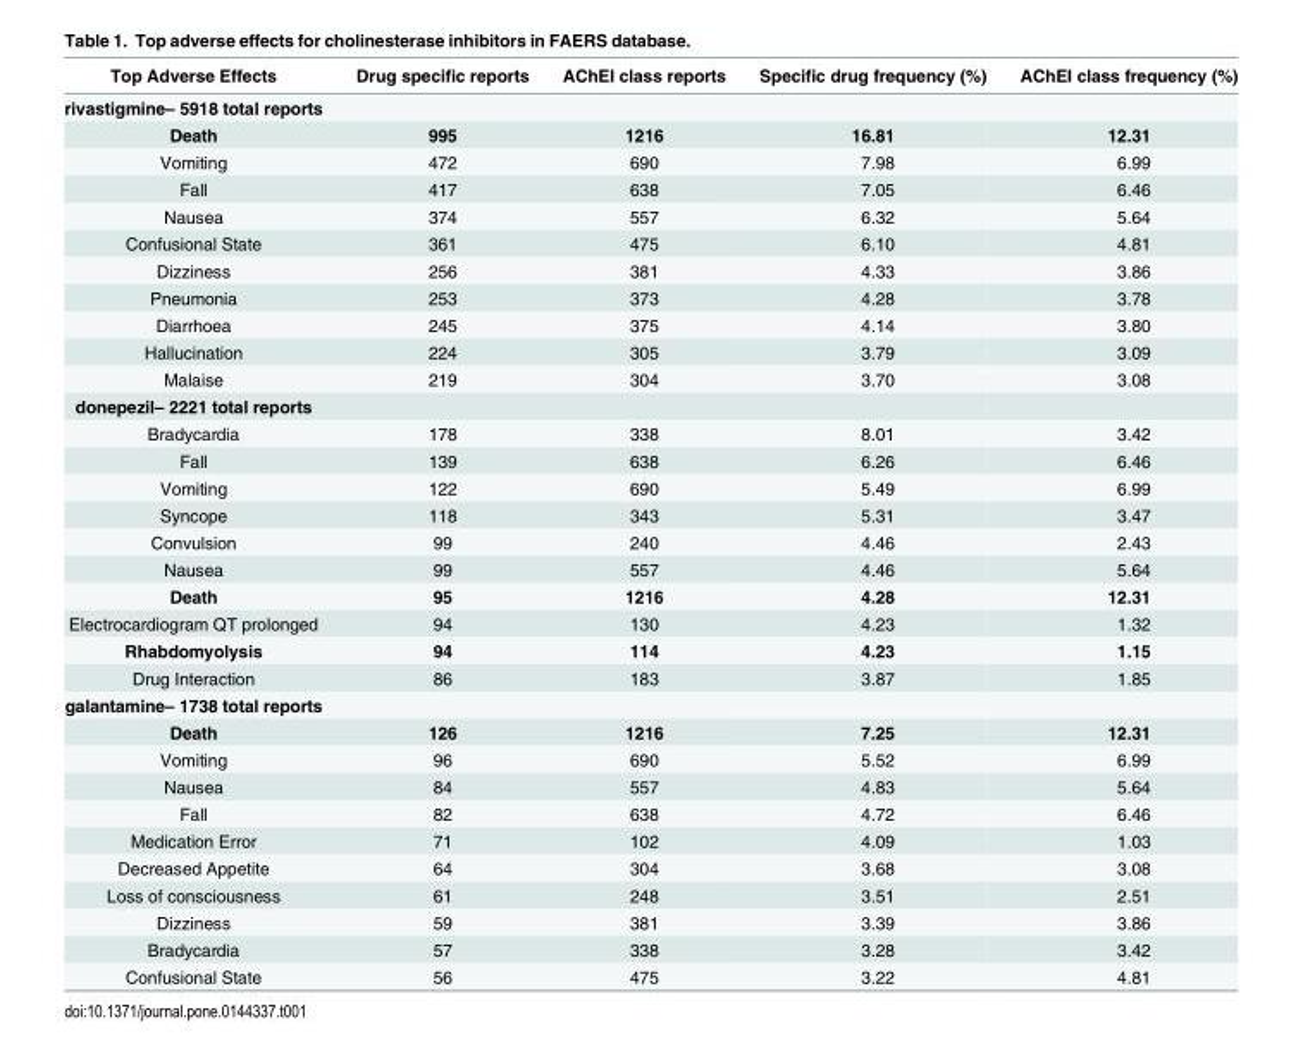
<table><thead><tr><td>Top Adverse Effects</td><td>Drug specific reports</td><td>AChEI class reports</td><td>Specific drug frequency (%)</td><td>AChEI class frequency (%)</td></tr></thead><tbody><tr><td colspan="5">rivastigmine– 5918 total reports</td></tr><tr><td>Death</td><td>995</td><td>1216</td><td>16.81</td><td>12.31</td></tr><tr><td>Vomiting</td><td>472</td><td>690</td><td>7.98</td><td>6.99</td></tr><tr><td>Fall</td><td>417</td><td>638</td><td>7.05</td><td>6.46</td></tr><tr><td>Nausea</td><td>374</td><td>557</td><td>6.32</td><td>5.64</td></tr><tr><td>Confusional State</td><td>361</td><td>475</td><td>6.10</td><td>4.81</td></tr><tr><td>Dizziness</td><td>256</td><td>381</td><td>4.33</td><td>3.86</td></tr><tr><td>Pneumonia</td><td>253</td><td>373</td><td>4.28</td><td>3.78</td></tr><tr><td>Diarrhoea</td><td>245</td><td>375</td><td>4.14</td><td>3.80</td></tr><tr><td>Hallucination</td><td>224</td><td>305</td><td>3.79</td><td>3.09</td></tr><tr><td>Malaise</td><td>219</td><td>304</td><td>3.70</td><td>3.08</td></tr><tr><td colspan="5">donepezil– 2221 total reports</td></tr><tr><td>Bradycardia</td><td>178</td><td>338</td><td>8.01</td><td>3.42</td></tr><tr><td>Fall</td><td>139</td><td>638</td><td>6.26</td><td>6.46</td></tr><tr><td>Vomiting</td><td>122</td><td>690</td><td>5.49</td><td>6.99</td></tr><tr><td>Syncope</td><td>118</td><td>343</td><td>5.31</td><td>3.47</td></tr><tr><td>Convulsion</td><td>99</td><td>240</td><td>4.46</td><td>2.43</td></tr><tr><td>Nausea</td><td>99</td><td>557</td><td>4.46</td><td>5.64</td></tr><tr><td>Death</td><td>95</td><td>1216</td><td>4.28</td><td>12.31</td></tr><tr><td>Electrocardiogram QT prolonged</td><td>94</td><td>130</td><td>4.23</td><td>1.32</td></tr><tr><td>Rhabdomyolysis</td><td>94</td><td>114</td><td>4.23</td><td>1.15</td></tr><tr><td>Drug Interaction</td><td>86</td><td>183</td><td>3.87</td><td>1.85</td></tr><tr><td colspan="5">galantamine– 1738 total reports</td></tr><tr><td>Death</td><td>126</td><td>1216</td><td>7.25</td><td>12.31</td></tr><tr><td>Vomiting</td><td>96</td><td>690</td><td>5.52</td><td>6.99</td></tr><tr><td>Nausea</td><td>84</td><td>557</td><td>4.83</td><td>5.64</td></tr><tr><td>Fall</td><td>82</td><td>638</td><td>4.72</td><td>6.46</td></tr><tr><td>Medication Error</td><td>71</td><td>102</td><td>4.09</td><td>1.03</td></tr><tr><td>Decreased Appetite</td><td>64</td><td>304</td><td>3.68</td><td>3.08</td></tr><tr><td>Loss of consciousness</td><td>61</td><td>248</td><td>3.51</td><td>2.51</td></tr><tr><td>Dizziness</td><td>59</td><td>381</td><td>3.39</td><td>3.86</td></tr><tr><td>Bradycardia</td><td>57</td><td>338</td><td>3.28</td><td>3.42</td></tr><tr><td>Confusional State</td><td>56</td><td>475</td><td>3.22</td><td>4.81</td></tr></tbody></table>